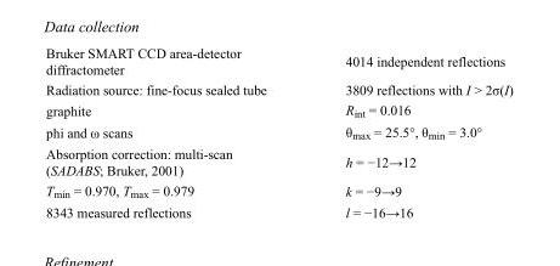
<table><tbody><tr><td>Bruker SMART CCD area-detector diffractometer</td><td>4014 independent reflections</td></tr><tr><td>Radiation source: fine-focus sealed tube</td><td>3809 reflections with I &gt; 2σ(I)</td></tr><tr><td>graphite</td><td>R<sub>int</sub> = 0.016</td></tr><tr><td>phi and ω scans</td><td>θ<sub>max</sub> = 25.5°, θ<sub>min</sub> = 3.0°</td></tr><tr><td>Absorption correction: multi-scan (SADABS; Bruker, 2001)</td><td>h = −12→12</td></tr><tr><td>T<sub>min</sub> = 0.970, T<sub>max</sub> = 0.979</td><td>k = −9→9</td></tr><tr><td>8343 measured reflections</td><td>l = −16→16</td></tr></tbody></table>